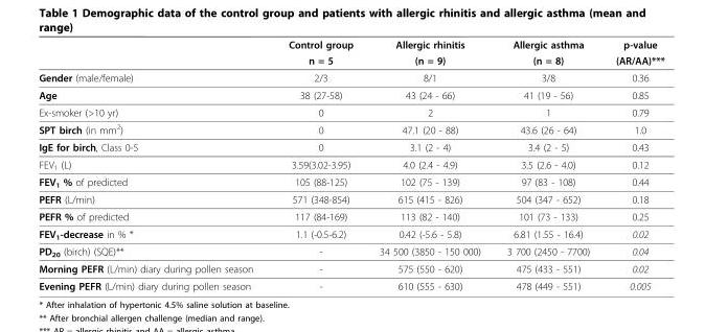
<table><thead><tr><td rowspan="2"></td><td rowspan="2">Control group n = 5</td><td rowspan="2">Allergic rhinitis (n = 9)</td><td rowspan="2">Allergic asthma (n = 8)</td><td rowspan="2">p-value (AR/AA)***</td></tr><tr></tr></thead><tbody><tr><td>Gender (male/female)</td><td>2/3</td><td>8/1</td><td>3/8</td><td>0.36</td></tr><tr><td>Age</td><td>38 (27-58)</td><td>43 (24 - 66)</td><td>41 (19 - 56)</td><td>0.85</td></tr><tr><td>Ex-smoker (&gt;10 yr)</td><td>0</td><td>2</td><td>1</td><td>0.79</td></tr><tr><td>SPT birch (in mm<sup>2</sup>)</td><td>0</td><td>47.1 (20 - 88)</td><td>43.6 (26 - 64)</td><td>1.0</td></tr><tr><td>IgE for birch, Class 0-5</td><td>0</td><td>3.1 (2 - 4)</td><td>3.4 (2 - 5)</td><td>0.43</td></tr><tr><td>FEV<sub>1</sub> (L)</td><td>3.59(3.02-3.95)</td><td>4.0 (2.4 - 4.9)</td><td>3.5 (2.6 - 4.0)</td><td>0.12</td></tr><tr><td>FEV<sub>1</sub> % of predicted</td><td>105 (88-125)</td><td>102 (75 - 139)</td><td>97 (83 - 108)</td><td>0.44</td></tr><tr><td>PEFR (L/min)</td><td>571 (348-854)</td><td>615 (415 - 826)</td><td>504 (347 - 652)</td><td>0.18</td></tr><tr><td>PEFR % of predicted</td><td>117 (84-169)</td><td>113 (82 - 140)</td><td>101 (73 - 133)</td><td>0.25</td></tr><tr><td>FEV<sub>1</sub>-decrease in % *</td><td>1.1 (-0.5-6.2)</td><td>0.42 (-5.6 - 5.8)</td><td>6.81 (1.55 - 16.4)</td><td>0.02</td></tr><tr><td>PD<sub>20</sub> (birch) (SQE)**</td><td>-</td><td>34 500 (3850 - 150 000)</td><td>3 700 (2450 - 7700)</td><td>0.04</td></tr><tr><td>Morning PEFR (L/min) diary during pollen season</td><td>-</td><td>575 (550 - 620)</td><td>475 (433 - 551)</td><td>0.02</td></tr><tr><td>Evening PEFR (L/min) diary during pollen season</td><td>-</td><td>610 (555 - 630)</td><td>478 (449 - 551)</td><td>0.005</td></tr></tbody></table>